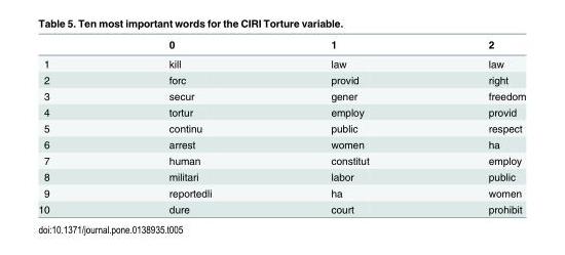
<table><thead><tr><td></td><td>0</td><td>1</td><td>2</td></tr></thead><tbody><tr><td>1</td><td>kill</td><td>law</td><td>law</td></tr><tr><td>2</td><td>forc</td><td>provid</td><td>right</td></tr><tr><td>3</td><td>secur</td><td>gener</td><td>freedom</td></tr><tr><td>4</td><td>tortur</td><td>employ</td><td>provid</td></tr><tr><td>5</td><td>continu</td><td>public</td><td>respect</td></tr><tr><td>6</td><td>arrest</td><td>women</td><td>ha</td></tr><tr><td>7</td><td>human</td><td>constitut</td><td>employ</td></tr><tr><td>8</td><td>militari</td><td>labor</td><td>public</td></tr><tr><td>9</td><td>reportedli</td><td>ha</td><td>women</td></tr><tr><td>10</td><td>dure</td><td>court</td><td>prohibit</td></tr></tbody></table>